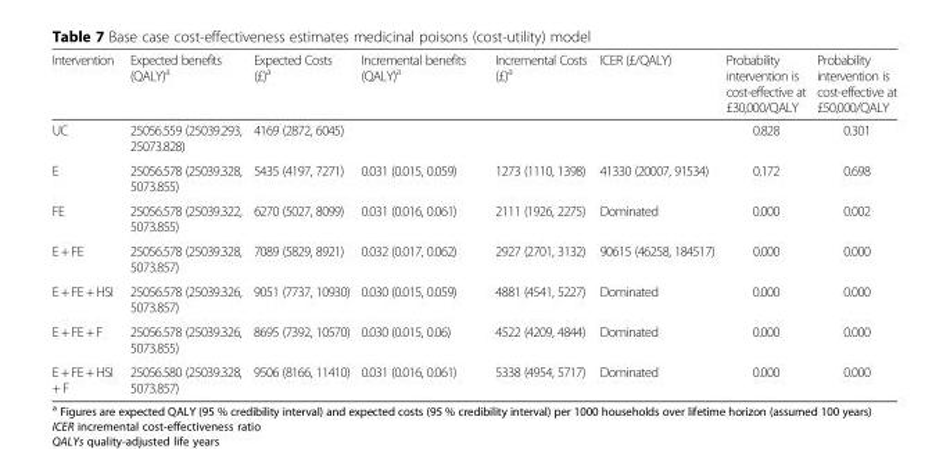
<table><thead><tr><td>Intervention</td><td>Expected benefits (QALY)<sup>a</sup></td><td>Expected Costs (£)<sup>a</sup></td><td>Incremental benefits (QALY)<sup>a</sup></td><td>Incremental Costs (£)<sup>a</sup></td><td>ICER (£/QALY)</td><td>Probability intervention is cost-effective at £30,000/QALY</td><td>Probability intervention is cost-effective at £50,000/QALY</td></tr></thead><tbody><tr><td>UC</td><td>25056.559 (25039.293, 25073.828)</td><td>4169 (2872, 6045)</td><td></td><td></td><td></td><td>0.828</td><td>0.301</td></tr><tr><td>E</td><td>25056.578 (25039.328, 5073.855)</td><td>5435 (4197, 7271)</td><td>0.031 (0.015, 0.059)</td><td>1273 (1110, 1398)</td><td>41330 (20007, 91534)</td><td>0.172</td><td>0.698</td></tr><tr><td>FE</td><td>25056.578 (25039.322, 5073.855)</td><td>6270 (5027, 8099)</td><td>0.031 (0.016, 0.061)</td><td>2111 (1926, 2275)</td><td>Dominated</td><td>0.000</td><td>0.002</td></tr><tr><td>E + FE</td><td>25056.578 (25039.328, 5073.857)</td><td>7089 (5829, 8921)</td><td>0.032 (0.017, 0.062)</td><td>2927 (2701, 3132)</td><td>90615 (46258, 184517)</td><td>0.000</td><td>0.000</td></tr><tr><td>E + FE + HSI</td><td>25056.578 (25039.326, 5073.857)</td><td>9051 (7737, 10930)</td><td>0.030 (0.015, 0.059)</td><td>4881 (4541, 5227)</td><td>Dominated</td><td>0.000</td><td>0.000</td></tr><tr><td>E + FE + F</td><td>25056.578 (25039.326, 5073.855)</td><td>8695 (7392, 10570)</td><td>0.030 (0.015, 0.06)</td><td>4522 (4209, 4844)</td><td>Dominated</td><td>0.000</td><td>0.000</td></tr><tr><td>E + FE + HSI + F</td><td>25056.580 (25039.328, 5073.857)</td><td>9506 (8166, 11410)</td><td>0.031 (0.016, 0.061)</td><td>5338 (4954, 5717)</td><td>Dominated</td><td>0.000</td><td>0.000</td></tr></tbody></table>